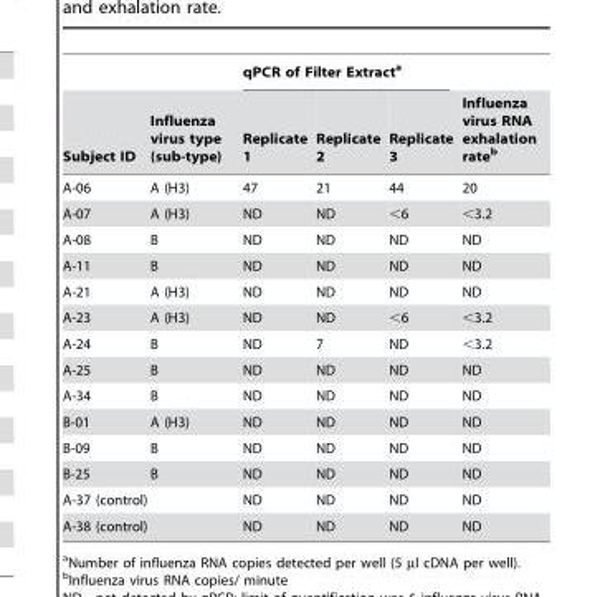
<table><thead><tr><td rowspan="2">Subject ID</td><td rowspan="2">Influenza virus type (sub-type)</td><td colspan="3">qPCR of Filter Extract<sup>a</sup></td><td rowspan="2">Influenza virus RNA exhalation rate<sup>b</sup></td></tr><tr><td>Replicate 1</td><td>Replicate 2</td><td>Replicate 3</td></tr></thead><tbody><tr><td>A-06</td><td>A (H3)</td><td>47</td><td>21</td><td>44</td><td>20</td></tr><tr><td>A-07</td><td>A (H3)</td><td>ND</td><td>ND</td><td>&lt;6</td><td>&lt;3.2</td></tr><tr><td>A-08</td><td>B</td><td>ND</td><td>ND</td><td>ND</td><td>ND</td></tr><tr><td>A-11</td><td>B</td><td>ND</td><td>ND</td><td>ND</td><td>ND</td></tr><tr><td>A-21</td><td>A (H3)</td><td>ND</td><td>ND</td><td>ND</td><td>ND</td></tr><tr><td>A-23</td><td>A (H3)</td><td>ND</td><td>ND</td><td>&lt;6</td><td>&lt;3.2</td></tr><tr><td>A-24</td><td>B</td><td>ND</td><td>7</td><td>ND</td><td>&lt;3.2</td></tr><tr><td>A-25</td><td>B</td><td>ND</td><td>ND</td><td>ND</td><td>ND</td></tr><tr><td>A-34</td><td>B</td><td>ND</td><td>ND</td><td>ND</td><td>ND</td></tr><tr><td>B-01</td><td>A (H3)</td><td>ND</td><td>ND</td><td>ND</td><td>ND</td></tr><tr><td>B-09</td><td>B</td><td>ND</td><td>ND</td><td>ND</td><td>ND</td></tr><tr><td>B-25</td><td>B</td><td>ND</td><td>ND</td><td>ND</td><td>ND</td></tr><tr><td>A-37 (control)</td><td></td><td>ND</td><td>ND</td><td>ND</td><td>ND</td></tr><tr><td>A-38 (control)</td><td></td><td>ND</td><td>ND</td><td>ND</td><td>ND</td></tr></tbody></table>